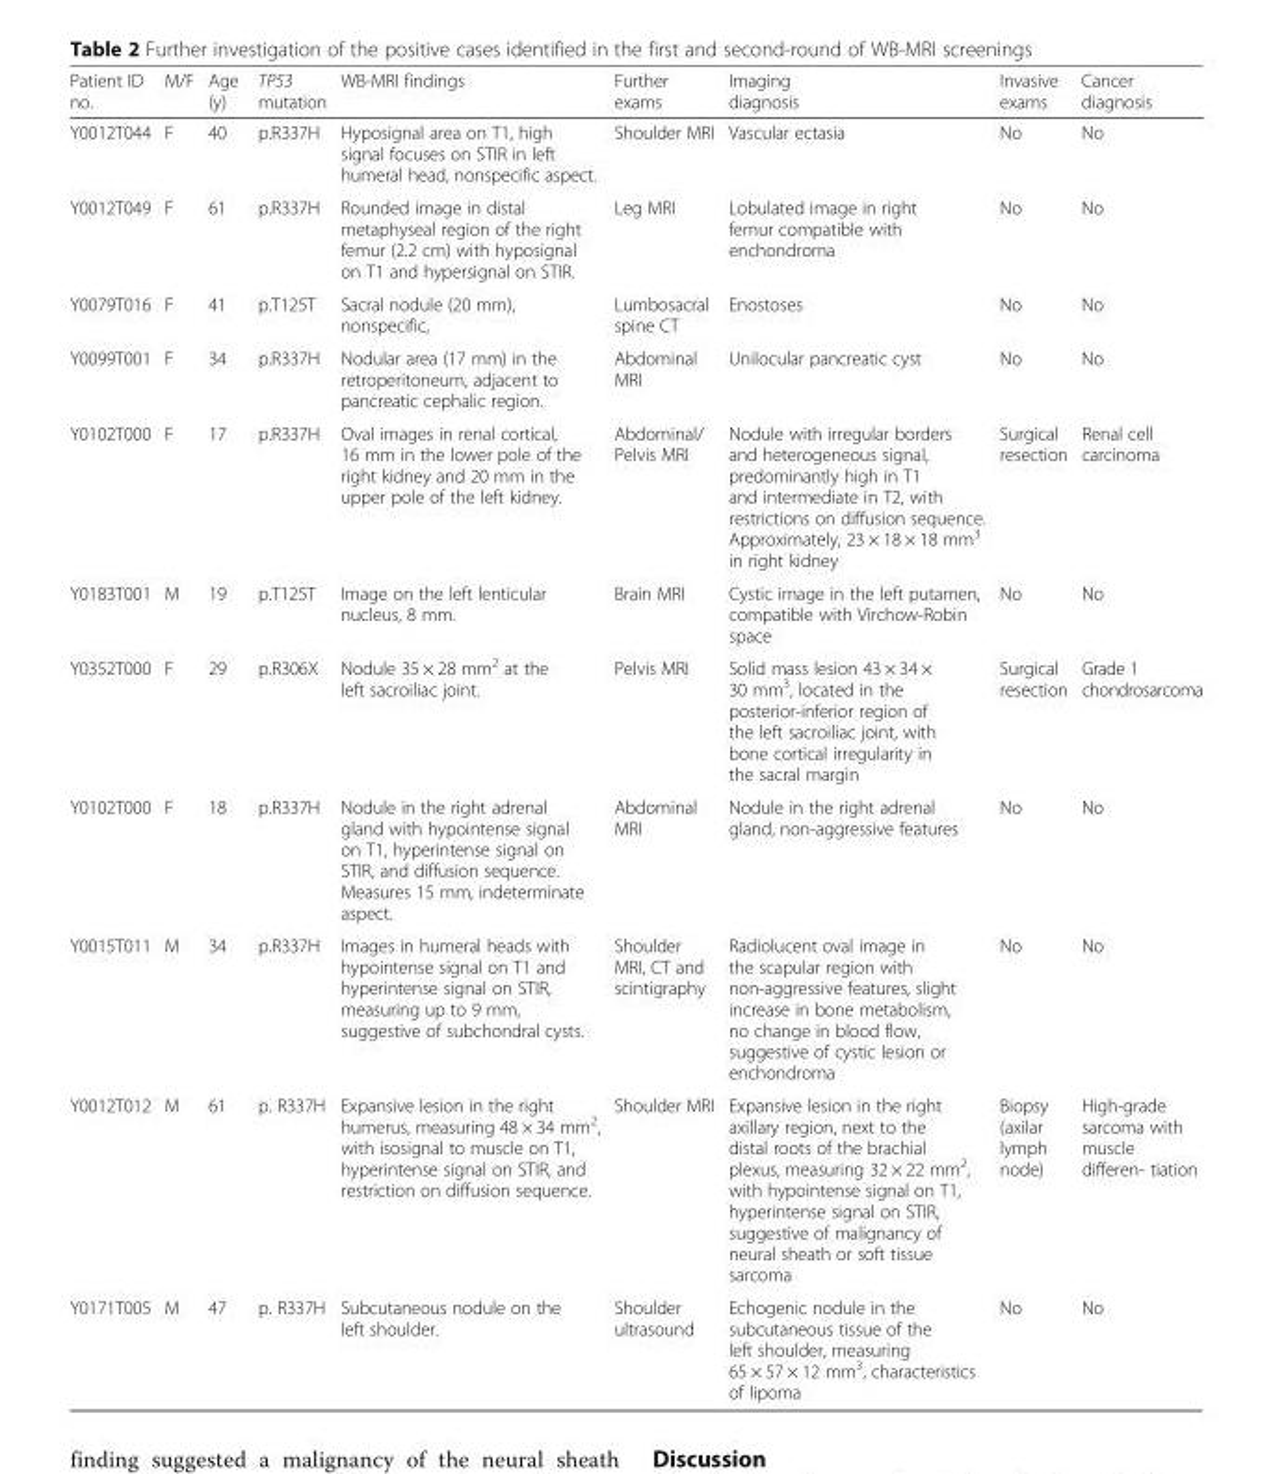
<table><thead><tr><td>Patient ID no.</td><td>M/F</td><td>Age (y)</td><td>TP53 mutation</td><td>WB-MRI findings</td><td>Further exams</td><td>Imaging diagnosis</td><td>Invasive exams</td><td>Cancer diagnosis</td></tr></thead><tbody><tr><td>Y0012T044</td><td>F</td><td>40</td><td>p.R337H</td><td>Hyposignal area on T1, high signal focuses on STIR in left humeral head, nonspecific aspect.</td><td>Shoulder MRI</td><td>Vascular ectasia</td><td>No</td><td>No</td></tr><tr><td>Y0012T049</td><td>F</td><td>61</td><td>p.R337H</td><td>Rounded image in distal metaphyseal region of the right femur (2.2 cm) with hyposignal on T1 and hypersignal on STIR.</td><td>Leg MRI</td><td>Lobulated image in right femur compatible with enchondroma</td><td>No</td><td>No</td></tr><tr><td>Y0079T016</td><td>F</td><td>41</td><td>p.T125T</td><td>Sacral nodule (20 mm), nonspecific,</td><td>Lumbosacral spine CT</td><td>Enostoses</td><td>No</td><td>No</td></tr><tr><td>Y0099T001</td><td>F</td><td>34</td><td>p.R337H</td><td>Nodular area (17 mm) in the retroperitoneum, adjacent to pancreatic cephalic region.</td><td>Abdominal MRI</td><td>Unilocular pancreatic cyst</td><td>No</td><td>No</td></tr><tr><td>Y0102T000</td><td>F</td><td>17</td><td>p.R337H</td><td>Oval images in renal cortical, 16 mm in the lower pole of the right kidney and 20 mm in the upper pole of the left kidney.</td><td>Abdominal/ Pelvis MRI</td><td>Nodule with irregular borders and heterogeneous signal, predominantly high in T1 and intermediate in T2, with restrictions on diffusion sequence. Approximately, 23 × 18 × 18 mm<sup>3</sup> in right kidney</td><td>Surgical resection</td><td>Renal cell carcinoma</td></tr><tr><td>Y0183T001</td><td>M</td><td>19</td><td>p.T125T</td><td>Image on the left lenticular nucleus, 8 mm.</td><td>Brain MRI</td><td>Cystic image in the left putamen, compatible with Virchow-Robin space</td><td>No</td><td>No</td></tr><tr><td>Y0352T000</td><td>F</td><td>29</td><td>p.R306X</td><td>Nodule 35 × 28 mm<sup>2</sup> at the left sacroiliac joint.</td><td>Pelvis MRI</td><td>Solid mass lesion 43 × 34 × 30 mm<sup>3</sup>, located in the posterior-inferior region of the left sacroiliac joint, with bone cortical irregularity in the sacral margin</td><td>Surgical resection</td><td>Grade 1 chondrosarcoma</td></tr><tr><td>Y0102T000</td><td>F</td><td>18</td><td>p.R337H</td><td>Nodule in the right adrenal gland with hypointense signal on T1, hyperintense signal on STIR, and diffusion sequence. Measures 15 mm, indeterminate aspect.</td><td>Abdominal MRI</td><td>Nodule in the right adrenal gland, non-aggressive features</td><td>No</td><td>No</td></tr><tr><td>Y0015T011</td><td>M</td><td>34</td><td>p.R337H</td><td>Images in humeral heads with hypointense signal on T1 and hyperintense signal on STIR, measuring up to 9 mm, suggestive of subchondral cysts.</td><td>Shoulder MRI, CT and scintigraphy</td><td>Radiolucent oval image in the scapular region with non-aggressive features, slight increase in bone metabolism, no change in blood flow, suggestive of cystic lesion or enchondroma</td><td>No</td><td>No</td></tr><tr><td>Y0012T012</td><td>M</td><td>61</td><td>p. R337H</td><td>Expansive lesion in the right humerus, measuring 48 × 34 mm<sup>2</sup>, with isosignal to muscle on T1, hyperintense signal on STIR, and restriction on diffusion sequence.</td><td>Shoulder MRI</td><td>Expansive lesion in the right axillary region, next to the distal roots of the brachial plexus, measuring 32 × 22 mm<sup>2</sup>, with hypointense signal on T1, hyperintense signal on STIR, suggestive of malignancy of neural sheath or soft tissue sarcoma</td><td>Biopsy (axilar lymph node)</td><td>High-grade sarcoma with muscle differen- tiation</td></tr><tr><td>Y0171T005</td><td>M</td><td>47</td><td>p. R337H</td><td>Subcutaneous nodule on the left shoulder.</td><td>Shoulder ultrasound</td><td>Echogenic nodule in the subcutaneous tissue of the left shoulder, measuring 65 × 57 × 12 mm<sup>3</sup>, characteristics of lipoma</td><td>No</td><td>No</td></tr></tbody></table>